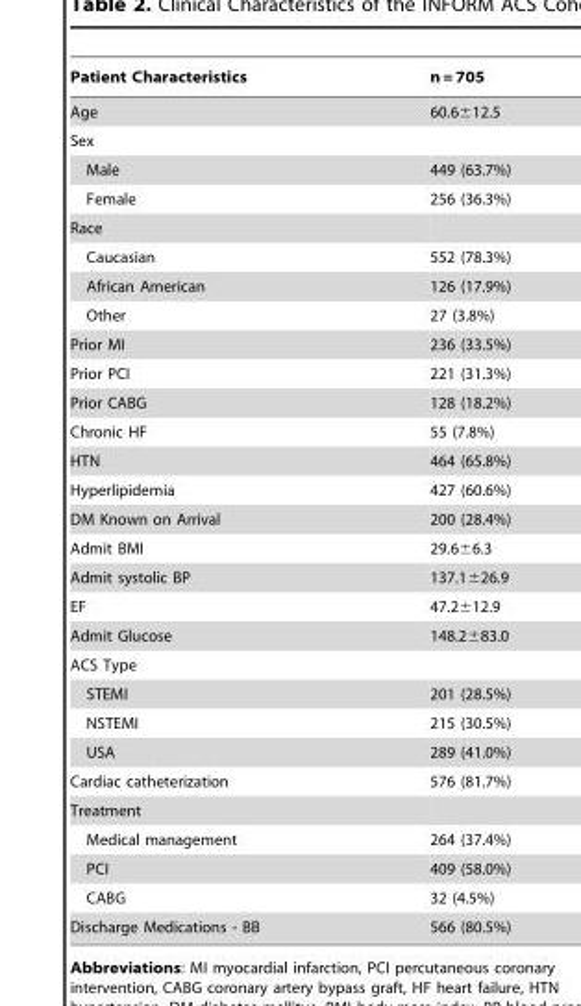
<table><thead><tr><td>Patient Characteristics</td><td>n = 705</td></tr></thead><tbody><tr><td>Age</td><td>60.6±12.5</td></tr><tr><td colspan="2">Sex</td></tr><tr><td>Male</td><td>449 (63.7%)</td></tr><tr><td>Female</td><td>256 (36.3%)</td></tr><tr><td colspan="2">Race</td></tr><tr><td>Caucasian</td><td>552 (78.3%)</td></tr><tr><td>African American</td><td>126 (17.9%)</td></tr><tr><td>Other</td><td>27 (3.8%)</td></tr><tr><td>Prior MI</td><td>236 (33.5%)</td></tr><tr><td>Prior PCI</td><td>221 (31.3%)</td></tr><tr><td>Prior CABG</td><td>128 (18.2%)</td></tr><tr><td>Chronic HF</td><td>55 (7.8%)</td></tr><tr><td>HTN</td><td>464 (65.8%)</td></tr><tr><td>Hyperlipidemia</td><td>427 (60.6%)</td></tr><tr><td>DM Known on Arrival</td><td>200 (28.4%)</td></tr><tr><td>Admit BMI</td><td>29.6±6.3</td></tr><tr><td>Admit systolic BP</td><td>137.1±26.9</td></tr><tr><td>EF</td><td>47.2±12.9</td></tr><tr><td>Admit Glucose</td><td>148.2±83.0</td></tr><tr><td colspan="2">ACS Type</td></tr><tr><td>STEMI</td><td>201 (28.5%)</td></tr><tr><td>NSTEMI</td><td>215 (30.5%)</td></tr><tr><td>USA</td><td>289 (41.0%)</td></tr><tr><td>Cardiac catheterization</td><td>576 (81.7%)</td></tr><tr><td colspan="2">Treatment</td></tr><tr><td>Medical management</td><td>264 (37.4%)</td></tr><tr><td>PCI</td><td>409 (58.0%)</td></tr><tr><td>CABG</td><td>32 (4.5%)</td></tr><tr><td>Discharge Medications - BB</td><td>566 (80.5%)</td></tr></tbody></table>